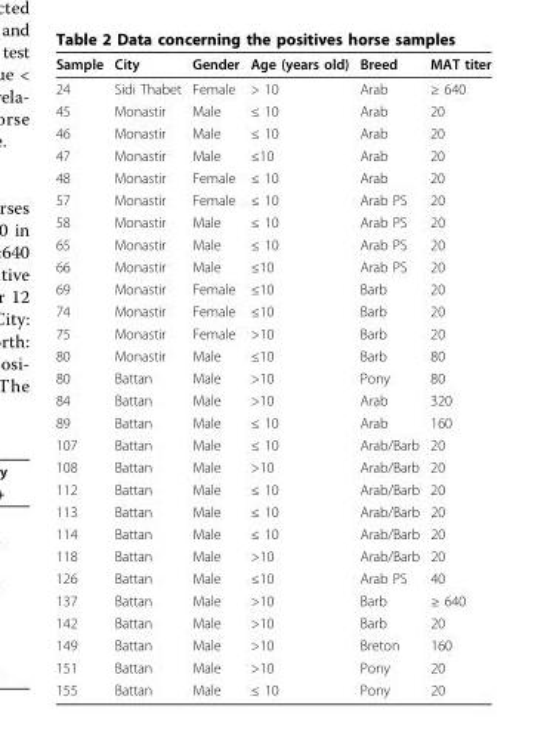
<table><thead><tr><td>Sample</td><td>City</td><td>Gender</td><td>Age (years old)</td><td>Breed</td><td>MAT titer</td></tr></thead><tbody><tr><td>24</td><td>Sidi Thabet</td><td>Female</td><td>&gt; 10</td><td>Arab</td><td>≥ 640</td></tr><tr><td>45</td><td>Monastir</td><td>Male</td><td>≤ 10</td><td>Arab</td><td>20</td></tr><tr><td>46</td><td>Monastir</td><td>Male</td><td>≤ 10</td><td>Arab</td><td>20</td></tr><tr><td>47</td><td>Monastir</td><td>Male</td><td>≤10</td><td>Arab</td><td>20</td></tr><tr><td>48</td><td>Monastir</td><td>Female</td><td>≤ 10</td><td>Arab</td><td>20</td></tr><tr><td>57</td><td>Monastir</td><td>Female</td><td>≤ 10</td><td>Arab PS</td><td>20</td></tr><tr><td>58</td><td>Monastir</td><td>Male</td><td>≤ 10</td><td>Arab PS</td><td>20</td></tr><tr><td>65</td><td>Monastir</td><td>Male</td><td>≤ 10</td><td>Arab PS</td><td>20</td></tr><tr><td>66</td><td>Monastir</td><td>Male</td><td>≤10</td><td>Arab PS</td><td>20</td></tr><tr><td>69</td><td>Monastir</td><td>Female</td><td>≤10</td><td>Barb</td><td>20</td></tr><tr><td>74</td><td>Monastir</td><td>Female</td><td>≤10</td><td>Barb</td><td>20</td></tr><tr><td>75</td><td>Monastir</td><td>Female</td><td>&gt;10</td><td>Barb</td><td>20</td></tr><tr><td>80</td><td>Monastir</td><td>Male</td><td>≤10</td><td>Barb</td><td>80</td></tr><tr><td>80</td><td>Battan</td><td>Male</td><td>&gt;10</td><td>Pony</td><td>80</td></tr><tr><td>84</td><td>Battan</td><td>Male</td><td>&gt;10</td><td>Arab</td><td>320</td></tr><tr><td>89</td><td>Battan</td><td>Male</td><td>≤ 10</td><td>Arab</td><td>160</td></tr><tr><td>107</td><td>Battan</td><td>Male</td><td>≤ 10</td><td>Arab/Barb</td><td>20</td></tr><tr><td>108</td><td>Battan</td><td>Male</td><td>&gt;10</td><td>Arab/Barb</td><td>20</td></tr><tr><td>112</td><td>Battan</td><td>Male</td><td>≤ 10</td><td>Arab/Barb</td><td>20</td></tr><tr><td>113</td><td>Battan</td><td>Male</td><td>≤ 10</td><td>Arab/Barb</td><td>20</td></tr><tr><td>114</td><td>Battan</td><td>Male</td><td>≤ 10</td><td>Arab/Barb</td><td>20</td></tr><tr><td>118</td><td>Battan</td><td>Male</td><td>&gt;10</td><td>Arab/Barb</td><td>20</td></tr><tr><td>126</td><td>Battan</td><td>Male</td><td>≤10</td><td>Arab PS</td><td>40</td></tr><tr><td>137</td><td>Battan</td><td>Male</td><td>&gt;10</td><td>Barb</td><td>≥ 640</td></tr><tr><td>142</td><td>Battan</td><td>Male</td><td>&gt;10</td><td>Barb</td><td>20</td></tr><tr><td>149</td><td>Battan</td><td>Male</td><td>&gt;10</td><td>Breton</td><td>160</td></tr><tr><td>151</td><td>Battan</td><td>Male</td><td>&gt;10</td><td>Pony</td><td>20</td></tr><tr><td>155</td><td>Battan</td><td>Male</td><td>≤ 10</td><td>Pony</td><td>20</td></tr></tbody></table>